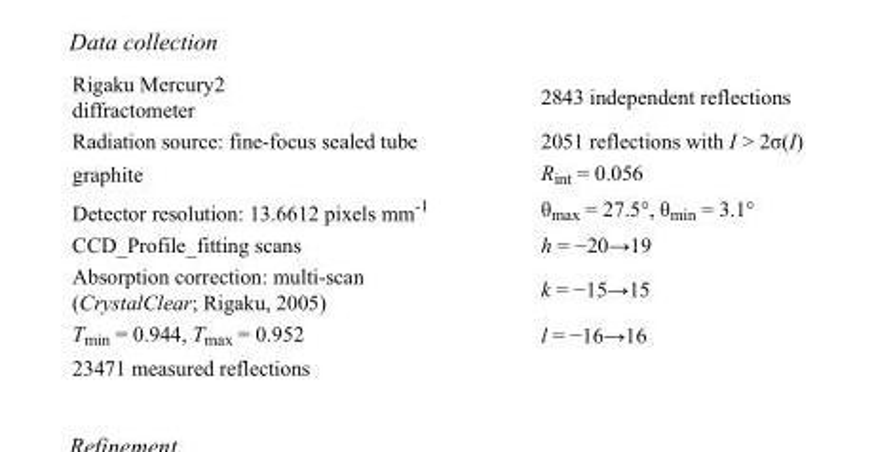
<table><tbody><tr><td>Rigaku Mercury2 diffractometer</td><td>2843 independent reflections</td></tr><tr><td>Radiation source: fine-focus sealed tube</td><td>2051 reflections with I &gt; 2σ(I)</td></tr><tr><td>graphite</td><td>R<sub>int</sub> = 0.056</td></tr><tr><td>Detector resolution: 13.6612 pixels mm<sup>-1</sup></td><td>θ<sub>max</sub> = 27.5°, θ<sub>min</sub> = 3.1°</td></tr><tr><td>CCD_Profile_fitting scans</td><td>h = −20→19</td></tr><tr><td>Absorption correction: multi-scan (CrystalClear; Rigaku, 2005)</td><td>k = −15→15</td></tr><tr><td>T<sub>min</sub> = 0.944, T<sub>max</sub> = 0.952</td><td>l = −16→16</td></tr><tr><td>23471 measured reflections</td><td></td></tr></tbody></table>